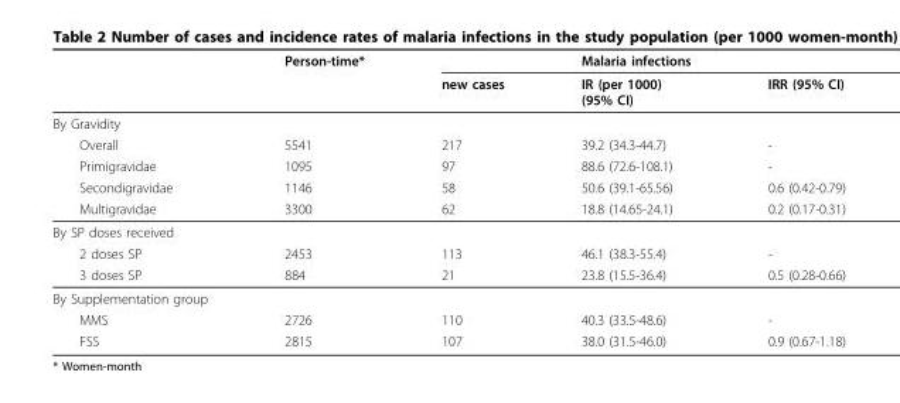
<table><thead><tr><td rowspan="2"></td><td rowspan="2">Person-time*</td><td rowspan="2">new cases</td><td rowspan="2">Malaria infections IR (per 1000) (95% CI)</td><td rowspan="2">IRR (95% CI)</td></tr><tr></tr></thead><tbody><tr><td colspan="5">By Gravidity</td></tr><tr><td>Overall</td><td>5541</td><td>217</td><td>39.2 (34.3-44.7)</td><td>-</td></tr><tr><td>Primigravidae</td><td>1095</td><td>97</td><td>88.6 (72.6-108.1)</td><td>-</td></tr><tr><td>Secondigravidae</td><td>1146</td><td>58</td><td>50.6 (39.1-65.56)</td><td>0.6 (0.42-0.79)</td></tr><tr><td>Multigravidae</td><td>3300</td><td>62</td><td>18.8 (14.65-24.1)</td><td>0.2 (0.17-0.31)</td></tr><tr><td colspan="5">By SP doses received</td></tr><tr><td>2 doses SP</td><td>2453</td><td>113</td><td>46.1 (38.3-55.4)</td><td>-</td></tr><tr><td>3 doses SP</td><td>884</td><td>21</td><td>23.8 (15.5-36.4)</td><td>0.5 (0.28-0.66)</td></tr><tr><td colspan="5">By Supplementation group</td></tr><tr><td>MMS</td><td>2726</td><td>110</td><td>40.3 (33.5-48.6)</td><td>-</td></tr><tr><td>FSS</td><td>2815</td><td>107</td><td>38.0 (31.5-46.0)</td><td>0.9 (0.67-1.18)</td></tr></tbody></table>